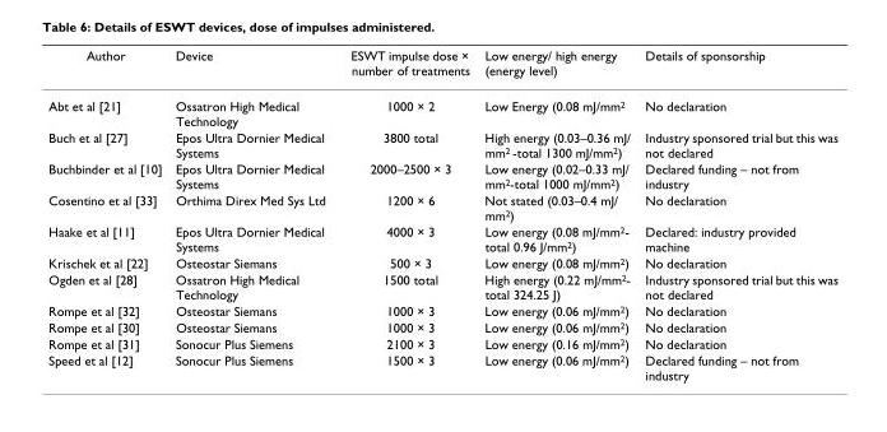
<table><thead><tr><td>Author</td><td>Device</td><td>ESWT impulse dose × number of treatments</td><td>Low energy/ high energy (energy level)</td><td>Details of sponsorship</td></tr></thead><tbody><tr><td>Abt et al [21]</td><td>Ossatron High Medical Technology</td><td>1000 × 2</td><td>Low Energy (0.08 mJ/mm<sup>2</sup></td><td>No declaration</td></tr><tr><td>Buch et al [27]</td><td>Epos Ultra Dornier Medical Systems</td><td>3800 total</td><td>High energy (0.03–0.36 mJ/ mm<sup>2</sup> -total 1300 mJ/mm<sup>2</sup>)</td><td>Industry sponsored trial but this was not declared</td></tr><tr><td>Buchbinder et al [10]</td><td>Epos Ultra Dornier Medical Systems</td><td>2000–2500 × 3</td><td>Low energy (0.02–0.33 mJ/ mm<sup>2</sup>-total 1000 mJ/mm<sup>2</sup>)</td><td>Declared funding – not from industry</td></tr><tr><td>Cosentino et al [33]</td><td>Orthima Direx Med Sys Ltd</td><td>1200 × 6</td><td>Not stated (0.03–0.4 mJ/ mm<sup>2</sup>)</td><td>No declaration</td></tr><tr><td>Haake et al [11]</td><td>Epos Ultra Dornier Medical Systems</td><td>4000 × 3</td><td>Low energy (0.08 mJ/mm<sup>2</sup>- total 0.96 J/mm<sup>2</sup>)</td><td>Declared: industry provided machine</td></tr><tr><td>Krischek et al [22]</td><td>Osteostar Siemans</td><td>500 × 3</td><td>Low energy (0.08 mJ/mm<sup>2</sup>)</td><td>No declaration</td></tr><tr><td>Ogden et al [28]</td><td>Ossatron High Medical Technology</td><td>1500 total</td><td>High energy (0.22 mJ/mm<sup>2</sup>- total 324.25 J)</td><td>Industry sponsored trial but this was not declared</td></tr><tr><td>Rompe et al [32]</td><td>Osteostar Siemans</td><td>1000 × 3</td><td>Low energy (0.06 mJ/mm<sup>2</sup>)</td><td>No declaration</td></tr><tr><td>Rompe et al [30]</td><td>Osteostar Siemans</td><td>1000 × 3</td><td>Low energy (0.06 mJ/mm<sup>2</sup>)</td><td>No declaration</td></tr><tr><td>Rompe et al [31]</td><td>Sonocur Plus Siemens</td><td>2100 × 3</td><td>Low energy (0.16 mJ/mm<sup>2</sup>)</td><td>No declaration</td></tr><tr><td>Speed et al [12]</td><td>Sonocur Plus Siemens</td><td>1500 × 3</td><td>Low energy (0.06 mJ/mm<sup>2</sup>)</td><td>Declared funding – not from industry</td></tr></tbody></table>